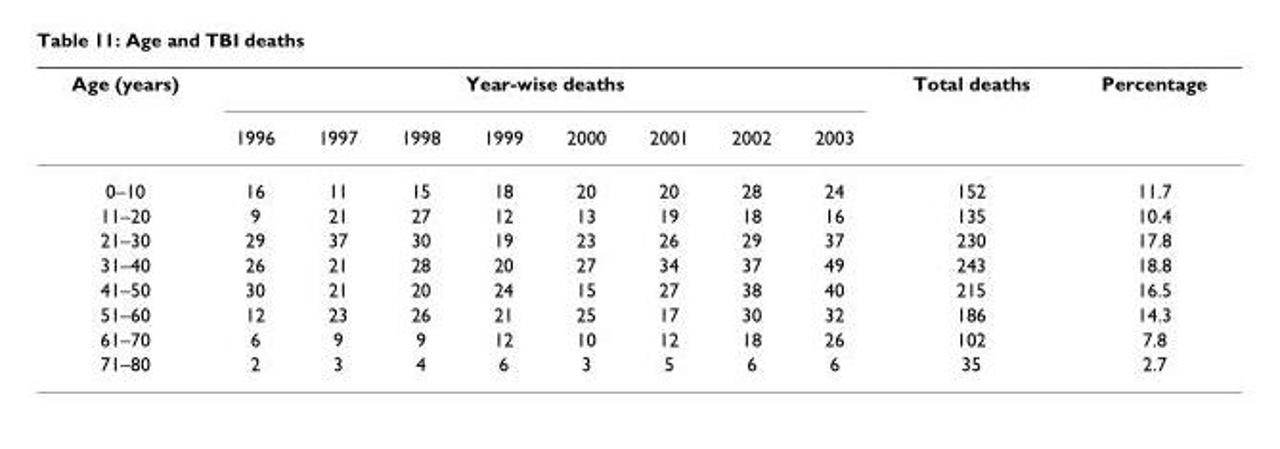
<table><thead><tr><td rowspan="2">Age (years)</td><td colspan="8">Year-wise deaths</td><td rowspan="2">Total deaths</td><td rowspan="2">Percentage</td></tr><tr><td>1996</td><td>1997</td><td>1998</td><td>1999</td><td>2000</td><td>2001</td><td>2002</td><td>2003</td></tr></thead><tbody><tr><td>0–10</td><td>16</td><td>11</td><td>15</td><td>18</td><td>20</td><td>20</td><td>28</td><td>24</td><td>152</td><td>11.7</td></tr><tr><td>11–20</td><td>9</td><td>21</td><td>27</td><td>12</td><td>13</td><td>19</td><td>18</td><td>16</td><td>135</td><td>10.4</td></tr><tr><td>21–30</td><td>29</td><td>37</td><td>30</td><td>19</td><td>23</td><td>26</td><td>29</td><td>37</td><td>230</td><td>17.8</td></tr><tr><td>31–40</td><td>26</td><td>21</td><td>28</td><td>20</td><td>27</td><td>34</td><td>37</td><td>49</td><td>243</td><td>18.8</td></tr><tr><td>41–50</td><td>30</td><td>21</td><td>20</td><td>24</td><td>15</td><td>27</td><td>38</td><td>40</td><td>215</td><td>16.5</td></tr><tr><td>51–60</td><td>12</td><td>23</td><td>26</td><td>21</td><td>25</td><td>17</td><td>30</td><td>32</td><td>186</td><td>14.3</td></tr><tr><td>61–70</td><td>6</td><td>9</td><td>9</td><td>12</td><td>10</td><td>12</td><td>18</td><td>26</td><td>102</td><td>7.8</td></tr><tr><td>71–80</td><td>2</td><td>3</td><td>4</td><td>6</td><td>3</td><td>5</td><td>6</td><td>6</td><td>35</td><td>2.7</td></tr></tbody></table>